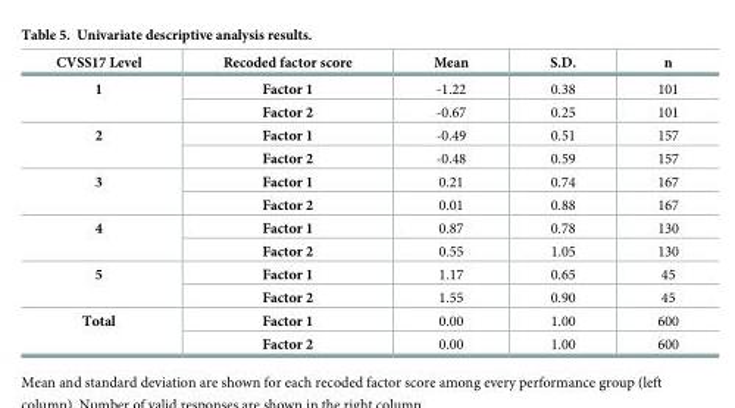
<table><thead><tr><td>CVSS17 Level</td><td>Recoded factor score</td><td>Mean</td><td>S.D.</td><td>n</td></tr></thead><tbody><tr><td rowspan="2">1</td><td>Factor 1</td><td>-1.22</td><td>0.38</td><td>101</td></tr><tr><td>Factor 2</td><td>-0.67</td><td>0.25</td><td>101</td></tr><tr><td rowspan="2">2</td><td>Factor 1</td><td>-0.49</td><td>0.51</td><td>157</td></tr><tr><td>Factor 2</td><td>-0.48</td><td>0.59</td><td>157</td></tr><tr><td rowspan="2">3</td><td>Factor 1</td><td>0.21</td><td>0.74</td><td>167</td></tr><tr><td>Factor 2</td><td>0.01</td><td>0.88</td><td>167</td></tr><tr><td rowspan="2">4</td><td>Factor 1</td><td>0.87</td><td>0.78</td><td>130</td></tr><tr><td>Factor 2</td><td>0.55</td><td>1.05</td><td>130</td></tr><tr><td rowspan="2">5</td><td>Factor 1</td><td>1.17</td><td>0.65</td><td>45</td></tr><tr><td>Factor 2</td><td>1.55</td><td>0.90</td><td>45</td></tr><tr><td rowspan="2">Total</td><td>Factor 1</td><td>0.00</td><td>1.00</td><td>600</td></tr><tr><td>Factor 2</td><td>0.00</td><td>1.00</td><td>600</td></tr></tbody></table>